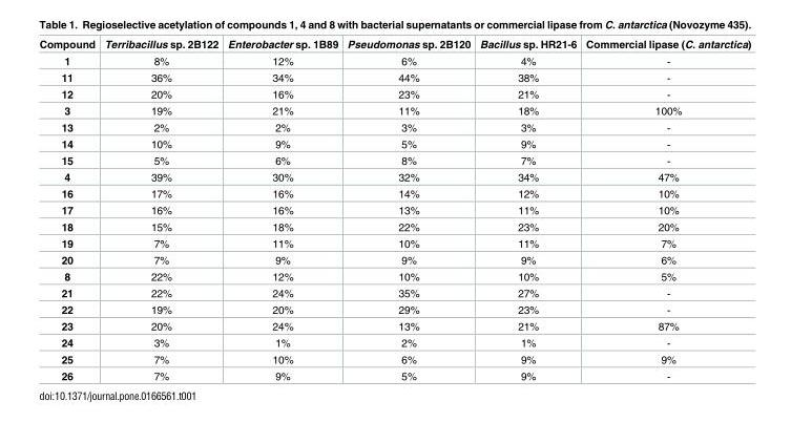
<table><thead><tr><td>Compound</td><td>Terribacillus sp. 2B122</td><td>Enterobacter sp. 1B89</td><td>Pseudomonas sp. 2B120</td><td>Bacillus sp. HR21-6</td><td>Commercial lipase (C. antarctica)</td></tr></thead><tbody><tr><td>1</td><td>8%</td><td>12%</td><td>6%</td><td>4%</td><td>-</td></tr><tr><td>11</td><td>36%</td><td>34%</td><td>44%</td><td>38%</td><td>-</td></tr><tr><td>12</td><td>20%</td><td>16%</td><td>23%</td><td>21%</td><td>-</td></tr><tr><td>3</td><td>19%</td><td>21%</td><td>11%</td><td>18%</td><td>100%</td></tr><tr><td>13</td><td>2%</td><td>2%</td><td>3%</td><td>3%</td><td>-</td></tr><tr><td>14</td><td>10%</td><td>9%</td><td>5%</td><td>9%</td><td>-</td></tr><tr><td>15</td><td>5%</td><td>6%</td><td>8%</td><td>7%</td><td>-</td></tr><tr><td>4</td><td>39%</td><td>30%</td><td>32%</td><td>34%</td><td>47%</td></tr><tr><td>16</td><td>17%</td><td>16%</td><td>14%</td><td>12%</td><td>10%</td></tr><tr><td>17</td><td>16%</td><td>16%</td><td>13%</td><td>11%</td><td>10%</td></tr><tr><td>18</td><td>15%</td><td>18%</td><td>22%</td><td>23%</td><td>20%</td></tr><tr><td>19</td><td>7%</td><td>11%</td><td>10%</td><td>11%</td><td>7%</td></tr><tr><td>20</td><td>7%</td><td>9%</td><td>9%</td><td>9%</td><td>6%</td></tr><tr><td>8</td><td>22%</td><td>12%</td><td>10%</td><td>10%</td><td>5%</td></tr><tr><td>21</td><td>22%</td><td>24%</td><td>35%</td><td>27%</td><td>-</td></tr><tr><td>22</td><td>19%</td><td>20%</td><td>29%</td><td>23%</td><td>-</td></tr><tr><td>23</td><td>20%</td><td>24%</td><td>13%</td><td>21%</td><td>87%</td></tr><tr><td>24</td><td>3%</td><td>1%</td><td>2%</td><td>1%</td><td>-</td></tr><tr><td>25</td><td>7%</td><td>10%</td><td>6%</td><td>9%</td><td>9%</td></tr><tr><td>26</td><td>7%</td><td>9%</td><td>5%</td><td>9%</td><td>-</td></tr></tbody></table>